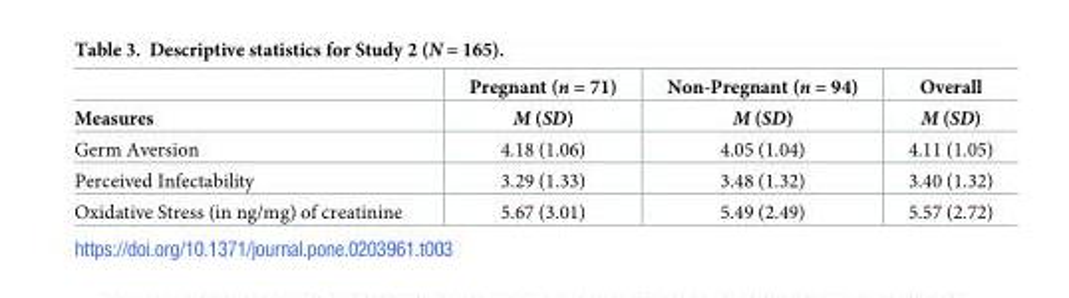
<table><thead><tr><td rowspan="2">Measures</td><td rowspan="2">Pregnant (n = 71) M (SD)</td><td rowspan="2">Non-Pregnant (n = 94) M (SD)</td><td rowspan="2">Overall M (SD)</td></tr><tr></tr></thead><tbody><tr><td>Germ Aversion</td><td>4.18 (1.06)</td><td>4.05 (1.04)</td><td>4.11 (1.05)</td></tr><tr><td>Perceived Infectability</td><td>3.29 (1.33)</td><td>3.48 (1.32)</td><td>3.40 (1.32)</td></tr><tr><td>Oxidative Stress (in ng/mg) of creatinine</td><td>5.67 (3.01)</td><td>5.49 (2.49)</td><td>5.57 (2.72)</td></tr></tbody></table>